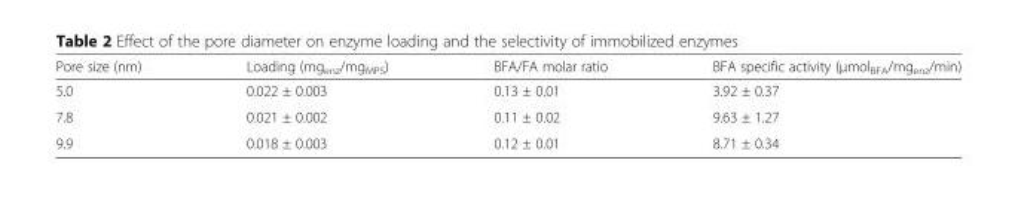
<table><thead><tr><td>Pore size (nm)</td><td>Loading (mg<sub>enz</sub>/mg<sub>MPS</sub>)</td><td>BFA/FA molar ratio</td><td>BFA specific activity (μmol<sub>BFA</sub>/mg<sub>enz</sub>/min)</td></tr></thead><tbody><tr><td>5.0</td><td>0.022 ± 0.003</td><td>0.13 ± 0.01</td><td>3.92 ± 0.37</td></tr><tr><td>7.8</td><td>0.021 ± 0.002</td><td>0.11 ± 0.02</td><td>9.63 ± 1.27</td></tr><tr><td>9.9</td><td>0.018 ± 0.003</td><td>0.12 ± 0.01</td><td>8.71 ± 0.34</td></tr></tbody></table>